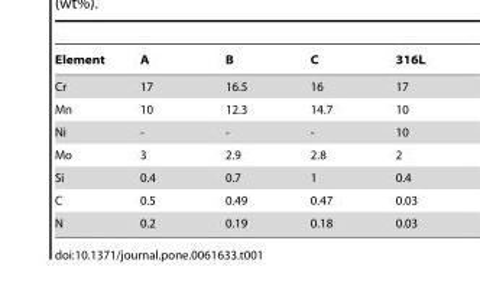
<table><thead><tr><td>Element</td><td>A</td><td>B</td><td>C</td><td>316L</td></tr></thead><tbody><tr><td>Cr</td><td>17</td><td>16.5</td><td>16</td><td>17</td></tr><tr><td>Mn</td><td>10</td><td>12.3</td><td>14.7</td><td>10</td></tr><tr><td>Ni</td><td>-</td><td>-</td><td>-</td><td>10</td></tr><tr><td>Mo</td><td>3</td><td>2.9</td><td>2.8</td><td>2</td></tr><tr><td>Si</td><td>0.4</td><td>0.7</td><td>1</td><td>0.4</td></tr><tr><td>C</td><td>0.5</td><td>0.49</td><td>0.47</td><td>0.03</td></tr><tr><td>N</td><td>0.2</td><td>0.19</td><td>0.18</td><td>0.03</td></tr></tbody></table>